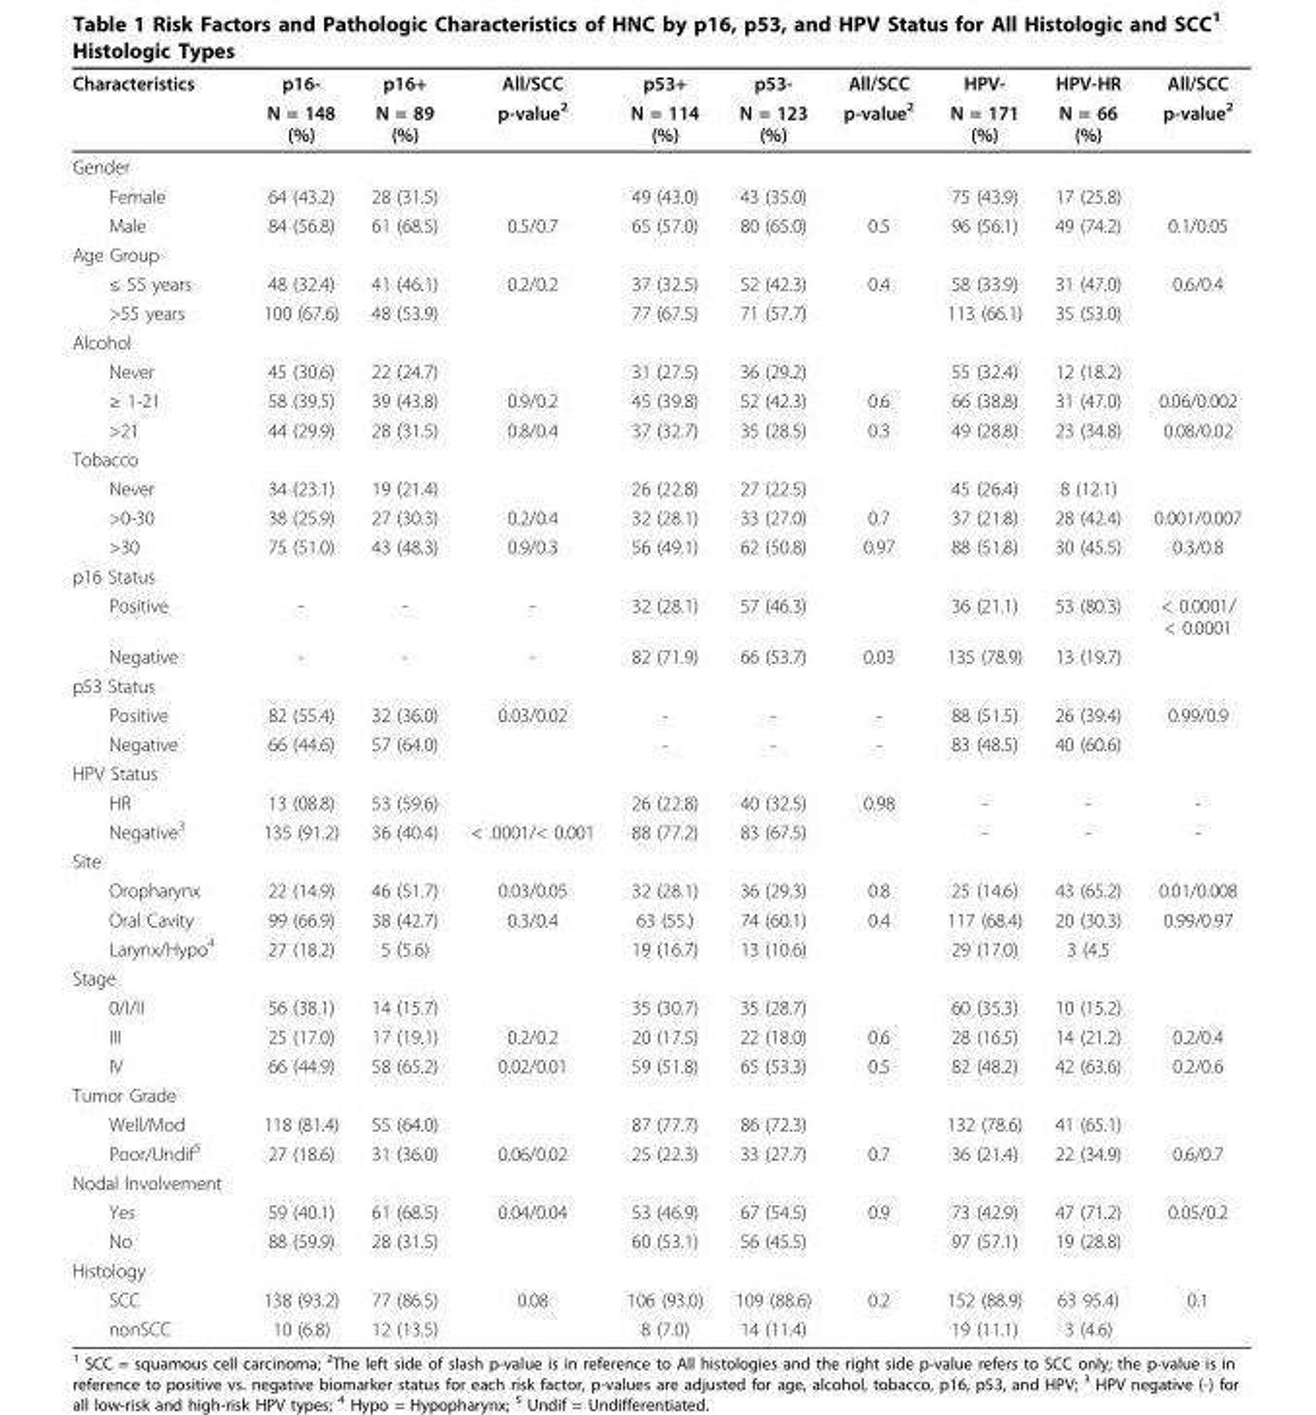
<table><thead><tr><td rowspan="2">Characteristics</td><td rowspan="2">p16- N = 148 (%)</td><td rowspan="2">p16+ N = 89 (%)</td><td rowspan="2">All/SCC p-value<sup>2</sup></td><td rowspan="2">p53+ N = 114 (%)</td><td rowspan="2">p53- N = 123 (%)</td><td rowspan="2">All/SCC p-value<sup>2</sup></td><td rowspan="2">HPV- N = 171 (%)</td><td rowspan="2">HPV-HR N = 66 (%)</td><td rowspan="2">All/SCC p-value<sup>2</sup></td></tr><tr></tr></thead><tbody><tr><td colspan="10">Gender</td></tr><tr><td>Female</td><td>64 (43.2)</td><td>28 (31.5)</td><td></td><td>49 (43.0)</td><td>43 (35.0)</td><td></td><td>75 (43.9)</td><td>17 (25.8)</td><td></td></tr><tr><td>Male</td><td>84 (56.8)</td><td>61 (68.5)</td><td>0.5/0.7</td><td>65 (57.0)</td><td>80 (65.0)</td><td>0.5</td><td>96 (56.1)</td><td>49 (74.2)</td><td>0.1/0.05</td></tr><tr><td colspan="10">Age Group</td></tr><tr><td>≤ 55 years</td><td>48 (32.4)</td><td>41 (46.1)</td><td>0.2/0.2</td><td>37 (32.5)</td><td>52 (42.3)</td><td>0.4</td><td>58 (33.9)</td><td>31 (47.0)</td><td>0.6/0.4</td></tr><tr><td>&gt;55 years</td><td>100 (67.6)</td><td>48 (53.9)</td><td></td><td>77 (67.5)</td><td>71 (57.7)</td><td></td><td>113 (66.1)</td><td>35 (53.0)</td><td></td></tr><tr><td colspan="10">Alcohol</td></tr><tr><td>Never</td><td>45 (30.6)</td><td>22 (24.7)</td><td></td><td>31 (27.5)</td><td>36 (29.2)</td><td></td><td>55 (32.4)</td><td>12 (18.2)</td><td></td></tr><tr><td>≥ 1-21</td><td>58 (39.5)</td><td>39 (43.8)</td><td>0.9/0.2</td><td>45 (39.8)</td><td>52 (42.3)</td><td>0.6</td><td>66 (38.8)</td><td>31 (47.0)</td><td>0.06/0.002</td></tr><tr><td>&gt;21</td><td>44 (29.9)</td><td>28 (31.5)</td><td>0.8/0.4</td><td>37 (32.7)</td><td>35 (28.5)</td><td>0.3</td><td>49 (28.8)</td><td>23 (34.8)</td><td>0.08/0.02</td></tr><tr><td colspan="10">Tobacco</td></tr><tr><td>Never</td><td>34 (23.1)</td><td>19 (21.4)</td><td></td><td>26 (22.8)</td><td>27 (22.5)</td><td></td><td>45 (26.4)</td><td>8 (12.1)</td><td></td></tr><tr><td>&gt;0-30</td><td>38 (25.9)</td><td>27 (30.3)</td><td>0.2/0.4</td><td>32 (28.1)</td><td>33 (27.0)</td><td>0.7</td><td>37 (21.8)</td><td>28 (42.4)</td><td>0.001/0.007</td></tr><tr><td>&gt;30</td><td>75 (51.0)</td><td>43 (48.3)</td><td>0.9/0.3</td><td>56 (49.1)</td><td>62 (50.8)</td><td>0.97</td><td>88 (51.8)</td><td>30 (45.5)</td><td>0.3/0.8</td></tr><tr><td colspan="10">p16 Status</td></tr><tr><td>Positive</td><td>-</td><td>-</td><td>-</td><td>32 (28.1)</td><td>57 (46.3)</td><td></td><td>36 (21.1)</td><td>53 (80.3)</td><td>&lt; 0.0001/ &lt; 0.0001</td></tr><tr><td>Negative</td><td>-</td><td>-</td><td>-</td><td>82 (71.9)</td><td>66 (53.7)</td><td>0.03</td><td>135 (78.9)</td><td>13 (19.7)</td><td></td></tr><tr><td colspan="10">p53 Status</td></tr><tr><td>Positive</td><td>82 (55.4)</td><td>32 (36.0)</td><td>0.03/0.02</td><td>-</td><td>-</td><td>-</td><td>88 (51.5)</td><td>26 (39.4)</td><td>0.99/0.9</td></tr><tr><td>Negative</td><td>66 (44.6)</td><td>57 (64.0)</td><td></td><td>-</td><td>-</td><td>-</td><td>83 (48.5)</td><td>40 (60.6)</td><td></td></tr><tr><td colspan="10">HPV Status</td></tr><tr><td>HR</td><td>13 (08.8)</td><td>53 (59.6)</td><td></td><td>26 (22.8)</td><td>40 (32.5)</td><td>0.98</td><td>-</td><td>-</td><td>-</td></tr><tr><td>Negative<sup>3</sup></td><td>135 (91.2)</td><td>36 (40.4)</td><td>&lt; .0001/&lt; 0.001</td><td>88 (77.2)</td><td>83 (67.5)</td><td></td><td>-</td><td>-</td><td>-</td></tr><tr><td colspan="10">Site</td></tr><tr><td>Oropharynx</td><td>22 (14.9)</td><td>46 (51.7)</td><td>0.03/0.05</td><td>32 (28.1)</td><td>36 (29.3)</td><td>0.8</td><td>25 (14.6)</td><td>43 (65.2)</td><td>0.01/0.008</td></tr><tr><td>Oral Cavity</td><td>99 (66.9)</td><td>38 (42.7)</td><td>0.3/0.4</td><td>63 (55.)</td><td>74 (60.1)</td><td>0.4</td><td>117 (68.4)</td><td>20 (30.3)</td><td>0.99/0.97</td></tr><tr><td>Larynx/Hypo<sup>4</sup></td><td>27 (18.2)</td><td>5 (5.6)</td><td></td><td>19 (16.7)</td><td>13 (10.6)</td><td></td><td>29 (17.0)</td><td>3 (4.5</td><td></td></tr><tr><td colspan="10">Stage</td></tr><tr><td>0/I/II</td><td>56 (38.1)</td><td>14 (15.7)</td><td></td><td>35 (30.7)</td><td>35 (28.7)</td><td></td><td>60 (35.3)</td><td>10 (15.2)</td><td></td></tr><tr><td>III</td><td>25 (17.0)</td><td>17 (19.1)</td><td>0.2/0.2</td><td>20 (17.5)</td><td>22 (18.0)</td><td>0.6</td><td>28 (16.5)</td><td>14 (21.2)</td><td>0.2/0.4</td></tr><tr><td>IV</td><td>66 (44.9)</td><td>58 (65.2)</td><td>0.02/0.01</td><td>59 (51.8)</td><td>65 (53.3)</td><td>0.5</td><td>82 (48.2)</td><td>42 (63.6)</td><td>0.2/0.6</td></tr><tr><td colspan="10">Tumor Grade</td></tr><tr><td>Well/Mod</td><td>118 (81.4)</td><td>55 (64.0)</td><td></td><td>87 (77.7)</td><td>86 (72.3)</td><td></td><td>132 (78.6)</td><td>41 (65.1)</td><td></td></tr><tr><td>Poor/Undif<sup>5</sup></td><td>27 (18.6)</td><td>31 (36.0)</td><td>0.06/0.02</td><td>25 (22.3)</td><td>33 (27.7)</td><td>0.7</td><td>36 (21.4)</td><td>22 (34.9)</td><td>0.6/0.7</td></tr><tr><td colspan="10">Nodal Involvement</td></tr><tr><td>Yes</td><td>59 (40.1)</td><td>61 (68.5)</td><td>0.04/0.04</td><td>53 (46.9)</td><td>67 (54.5)</td><td>0.9</td><td>73 (42.9)</td><td>47 (71.2)</td><td>0.05/0.2</td></tr><tr><td>No</td><td>88 (59.9)</td><td>28 (31.5)</td><td></td><td>60 (53.1)</td><td>56 (45.5)</td><td></td><td>97 (57.1)</td><td>19 (28.8)</td><td></td></tr><tr><td colspan="10">Histology</td></tr><tr><td>SCC</td><td>138 (93.2)</td><td>77 (86.5)</td><td>0.08</td><td>106 (93.0)</td><td>109 (88.6)</td><td>0.2</td><td>152 (88.9)</td><td>63 95.4)</td><td>0.1</td></tr><tr><td>nonSCC</td><td>10 (6.8)</td><td>12 (13.5)</td><td></td><td>8 (7.0)</td><td>14 (11.4)</td><td></td><td>19 (11.1)</td><td>3 (4.6)</td><td></td></tr></tbody></table>